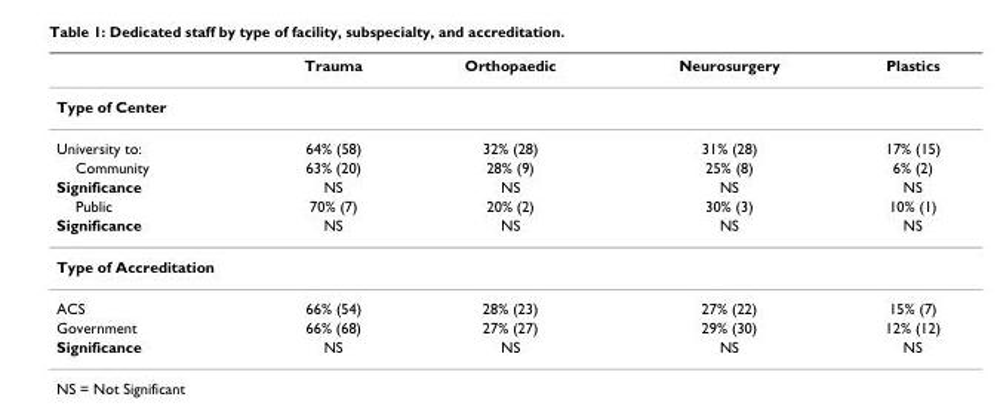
<table><thead><tr><td></td><td>Trauma</td><td>Orthopaedic</td><td>Neurosurgery</td><td>Plastics</td></tr></thead><tbody><tr><td colspan="5">Type of Center</td></tr><tr><td>University to:</td><td>64% (58)</td><td>32% (28)</td><td>31% (28)</td><td>17% (15)</td></tr><tr><td>Community</td><td>63% (20)</td><td>28% (9)</td><td>25% (8)</td><td>6% (2)</td></tr><tr><td>Significance</td><td>NS</td><td>NS</td><td>NS</td><td>NS</td></tr><tr><td>Public</td><td>70% (7)</td><td>20% (2)</td><td>30% (3)</td><td>10% (1)</td></tr><tr><td>Significance</td><td>NS</td><td>NS</td><td>NS</td><td>NS</td></tr><tr><td colspan="5">Type of Accreditation</td></tr><tr><td>ACS</td><td>66% (54)</td><td>28% (23)</td><td>27% (22)</td><td>15% (7)</td></tr><tr><td>Government</td><td>66% (68)</td><td>27% (27)</td><td>29% (30)</td><td>12% (12)</td></tr><tr><td>Significance</td><td>NS</td><td>NS</td><td>NS</td><td>NS</td></tr></tbody></table>